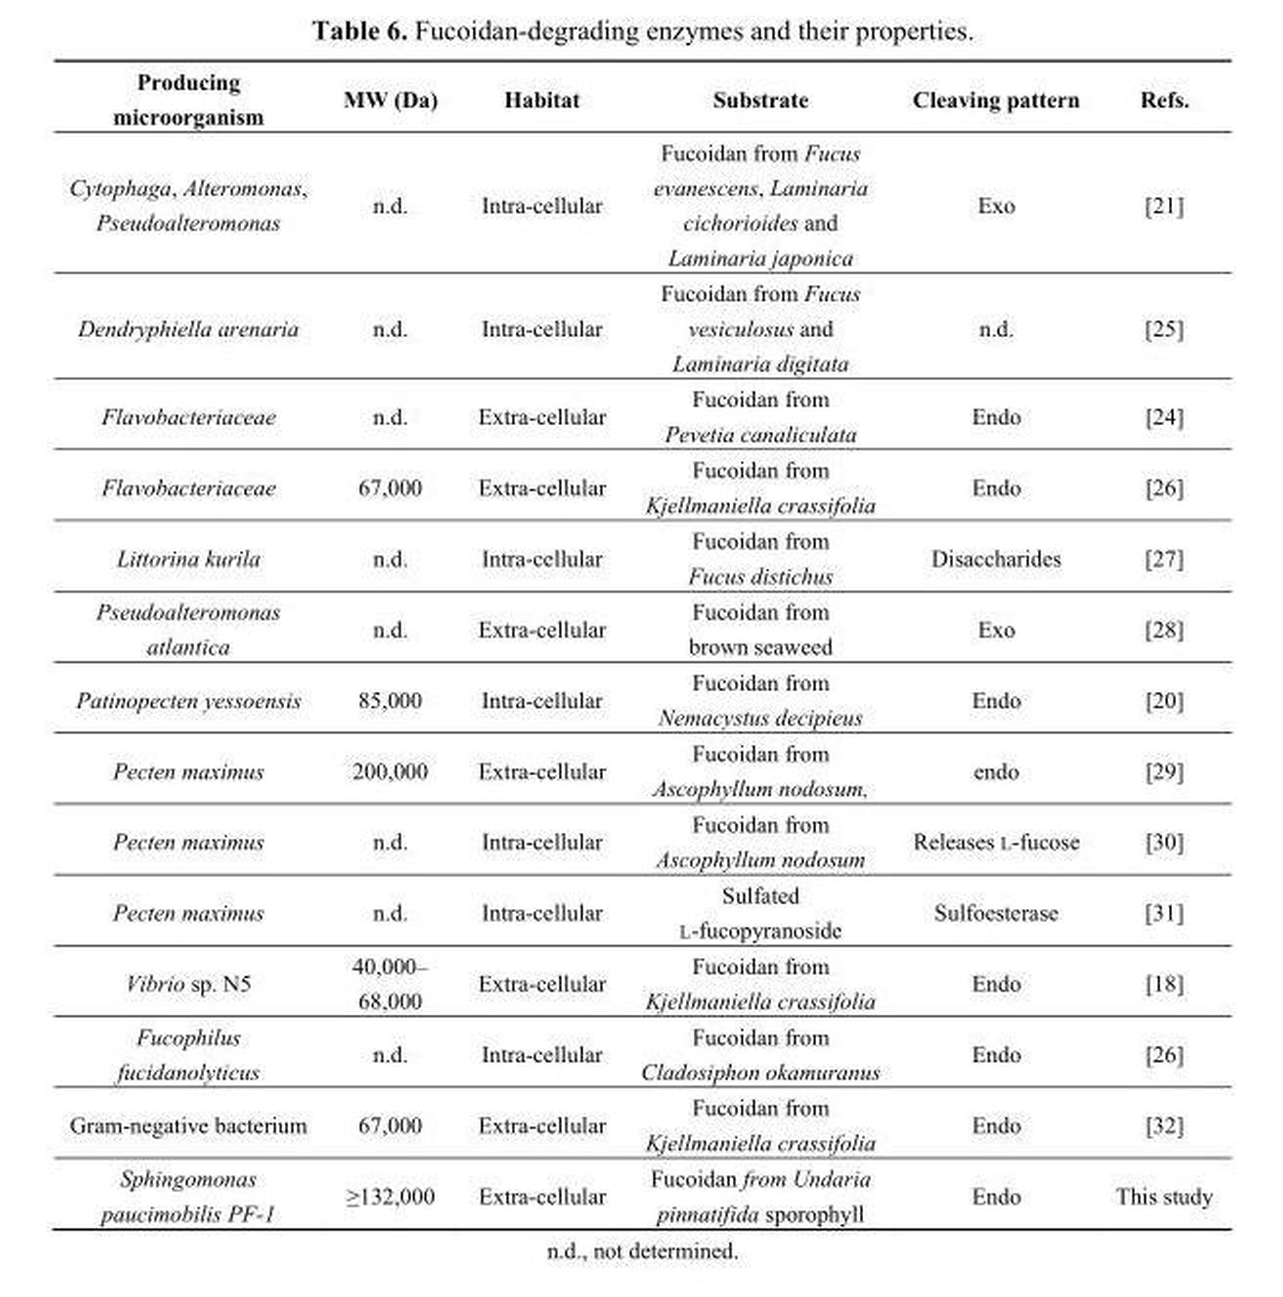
<table><thead><tr><td>Producing microorganism</td><td>MW (Da)</td><td>Habitat</td><td>Substrate</td><td>Cleaving pattern</td><td>Refs.</td></tr></thead><tbody><tr><td>Cytophaga, Alteromonas, Pseudoalteromonas</td><td>n.d.</td><td>Intra-cellular</td><td>Fucoidan from Fucus evanescens, Laminaria cichorioides and Laminaria japonica</td><td>Exo</td><td>[21]</td></tr><tr><td>Dendryphiella arenaria</td><td>n.d.</td><td>Intra-cellular</td><td>Fucoidan from Fucus vesiculosus and Laminaria digitata</td><td>n.d.</td><td>[25]</td></tr><tr><td>Flavobacteriaceae</td><td>n.d.</td><td>Extra-cellular</td><td>Fucoidan from Pevetia canaliculata</td><td>Endo</td><td>[24]</td></tr><tr><td>Flavobacteriaceae</td><td>67,000</td><td>Extra-cellular</td><td>Fucoidan from Kjellmaniella crassifolia</td><td>Endo</td><td>[26]</td></tr><tr><td>Littorina kurila</td><td>n.d.</td><td>Intra-cellular</td><td>Fucoidan from Fucus distichus</td><td>Disaccharides</td><td>[27]</td></tr><tr><td>Pseudoalteromonas atlantica</td><td>n.d.</td><td>Extra-cellular</td><td>Fucoidan from brown seaweed</td><td>Exo</td><td>[28]</td></tr><tr><td>Patinopecten yessoensis</td><td>85,000</td><td>Intra-cellular</td><td>Fucoidan from Nemacystus decipieus</td><td>Endo</td><td>[20]</td></tr><tr><td>Pecten maximus</td><td>200,000</td><td>Extra-cellular</td><td>Fucoidan from Ascophyllum nodosum,</td><td>endo</td><td>[29]</td></tr><tr><td>Pecten maximus</td><td>n.d.</td><td>Intra-cellular</td><td>Fucoidan from Ascophyllum nodosum</td><td>Releases L-fucose</td><td>[30]</td></tr><tr><td>Pecten maximus</td><td>n.d.</td><td>Intra-cellular</td><td>Sulfated L-fucopyranoside</td><td>Sulfoesterase</td><td>[31]</td></tr><tr><td>Vibrio sp. N5</td><td>40,000– 68,000</td><td>Extra-cellular</td><td>Fucoidan from Kjellmaniella crassifolia</td><td>Endo</td><td>[18]</td></tr><tr><td>Fucophilus fucidanolyticus</td><td>n.d.</td><td>Intra-cellular</td><td>Fucoidan from Cladosiphon okamuranus</td><td>Endo</td><td>[26]</td></tr><tr><td>Gram-negative bacterium</td><td>67,000</td><td>Extra-cellular</td><td>Fucoidan from Kjellmaniella crassifolia</td><td>Endo</td><td>[32]</td></tr><tr><td>Sphingomonas paucimobilis PF-1</td><td>≥132,000</td><td>Extra-cellular</td><td>Fucoidan from Undaria pinnatifida sporophyll</td><td>Endo</td><td>This study</td></tr></tbody></table>